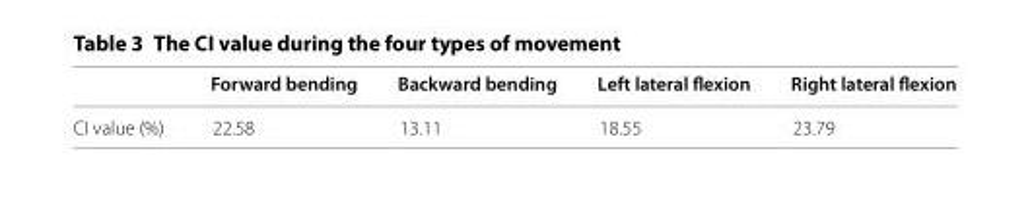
<table><thead><tr><td></td><td>Forward bending</td><td>Backward bending</td><td>Left lateral flexion</td><td>Right lateral flexion</td></tr></thead><tbody><tr><td>CI value (%)</td><td>22.58</td><td>13.11</td><td>18.55</td><td>23.79</td></tr></tbody></table>